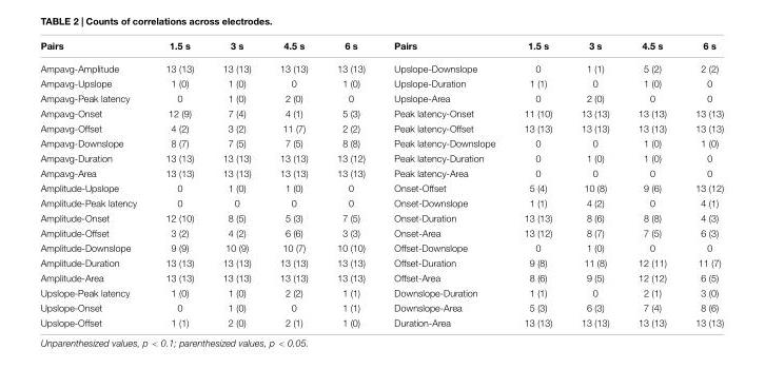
<table><thead><tr><td>Pairs</td><td>1.5 s</td><td>3 s</td><td>4.5 s</td><td>6 s</td><td>Pairs</td><td>1.5 s</td><td>3 s</td><td>4.5 s</td><td>6 s</td></tr></thead><tbody><tr><td>Ampavg-Amplitude</td><td>13 (13)</td><td>13 (13)</td><td>13 (13)</td><td>13 (13)</td><td>Upslope-Downslope</td><td>0</td><td>1 (1)</td><td>5 (2)</td><td>2 (2)</td></tr><tr><td>Ampavg-Upslope</td><td>1 (0)</td><td>1 (0)</td><td>0</td><td>1 (0)</td><td>Upslope-Duration</td><td>1 (1)</td><td>0</td><td>1 (0)</td><td>0</td></tr><tr><td>Ampavg-Peak latency</td><td>0</td><td>1 (0)</td><td>2 (0)</td><td>0</td><td>Upslope-Area</td><td>0</td><td>2 (0)</td><td>0</td><td>0</td></tr><tr><td>Ampavg-Onset</td><td>12 (9)</td><td>7 (4)</td><td>4 (1)</td><td>5 (3)</td><td>Peak latency-Onset</td><td>11 (10)</td><td>13 (13)</td><td>13 (13)</td><td>13 (13)</td></tr><tr><td>Ampavg-Offset</td><td>4 (2)</td><td>3 (2)</td><td>11 (7)</td><td>2 (2)</td><td>Peak latency-Offset</td><td>13 (13)</td><td>13 (13)</td><td>13 (13)</td><td>13 (13)</td></tr><tr><td>Ampavg-Downslope</td><td>8 (7)</td><td>7 (5)</td><td>7 (5)</td><td>8 (8)</td><td>Peak latency-Downslope</td><td>0</td><td>0</td><td>1 (0)</td><td>1 (0)</td></tr><tr><td>Ampavg-Duration</td><td>13 (13)</td><td>13 (13)</td><td>13 (13)</td><td>13 (12)</td><td>Peak latency-Duration</td><td>0</td><td>1 (0)</td><td>1 (0)</td><td>0</td></tr><tr><td>Ampavg-Area</td><td>13 (13)</td><td>13 (13)</td><td>13 (13)</td><td>13 (13)</td><td>Peak latency-Area</td><td>0</td><td>0</td><td>0</td><td>0</td></tr><tr><td>Amplitude-Upslope</td><td>0</td><td>1 (0)</td><td>1 (0)</td><td>0</td><td>Onset-Offset</td><td>5 (4)</td><td>10 (8)</td><td>9 (6)</td><td>13 (12)</td></tr><tr><td>Amplitude-Peak latency</td><td>0</td><td>0</td><td>0</td><td>0</td><td>Onset-Downslope</td><td>1 (1)</td><td>4 (2)</td><td>0</td><td>4 (1)</td></tr><tr><td>Amplitude-Onset</td><td>12 (10)</td><td>8 (5)</td><td>5 (3)</td><td>7 (5)</td><td>Onset-Duration</td><td>13 (13)</td><td>8 (6)</td><td>8 (8)</td><td>4 (3)</td></tr><tr><td>Amplitude-Offset</td><td>3 (2)</td><td>4 (2)</td><td>6 (6)</td><td>3 (3)</td><td>Onset-Area</td><td>13 (12)</td><td>8 (7)</td><td>7 (5)</td><td>6 (3)</td></tr><tr><td>Amplitude-Downslope</td><td>9 (9)</td><td>10 (9)</td><td>10 (7)</td><td>10 (10)</td><td>Offset-Downslope</td><td>0</td><td>1 (0)</td><td>0</td><td>0</td></tr><tr><td>Amplitude-Duration</td><td>13 (13)</td><td>13 (13)</td><td>13 (13)</td><td>13 (13)</td><td>Offset-Duration</td><td>9 (8)</td><td>11 (8)</td><td>12 (11)</td><td>11 (7)</td></tr><tr><td>Amplitude-Area</td><td>13 (13)</td><td>13 (13)</td><td>13 (13)</td><td>13 (13)</td><td>Offset-Area</td><td>8 (6)</td><td>9 (5)</td><td>12 (12)</td><td>6 (5)</td></tr><tr><td>Upslope-Peak latency</td><td>1 (0)</td><td>1 (0)</td><td>2 (2)</td><td>1 (1)</td><td>Downslope-Duration</td><td>1 (1)</td><td>0</td><td>2 (1)</td><td>3 (0)</td></tr><tr><td>Upslope-Onset</td><td>0</td><td>1 (0)</td><td>0</td><td>1 (1)</td><td>Downslope-Area</td><td>5 (3)</td><td>6 (3)</td><td>7 (4)</td><td>8 (6)</td></tr><tr><td>Upslope-Offset</td><td>1 (1)</td><td>2 (0)</td><td>2 (1)</td><td>1 (0)</td><td>Duration-Area</td><td>13 (13)</td><td>13 (13)</td><td>13 (13)</td><td>13 (13)</td></tr></tbody></table>